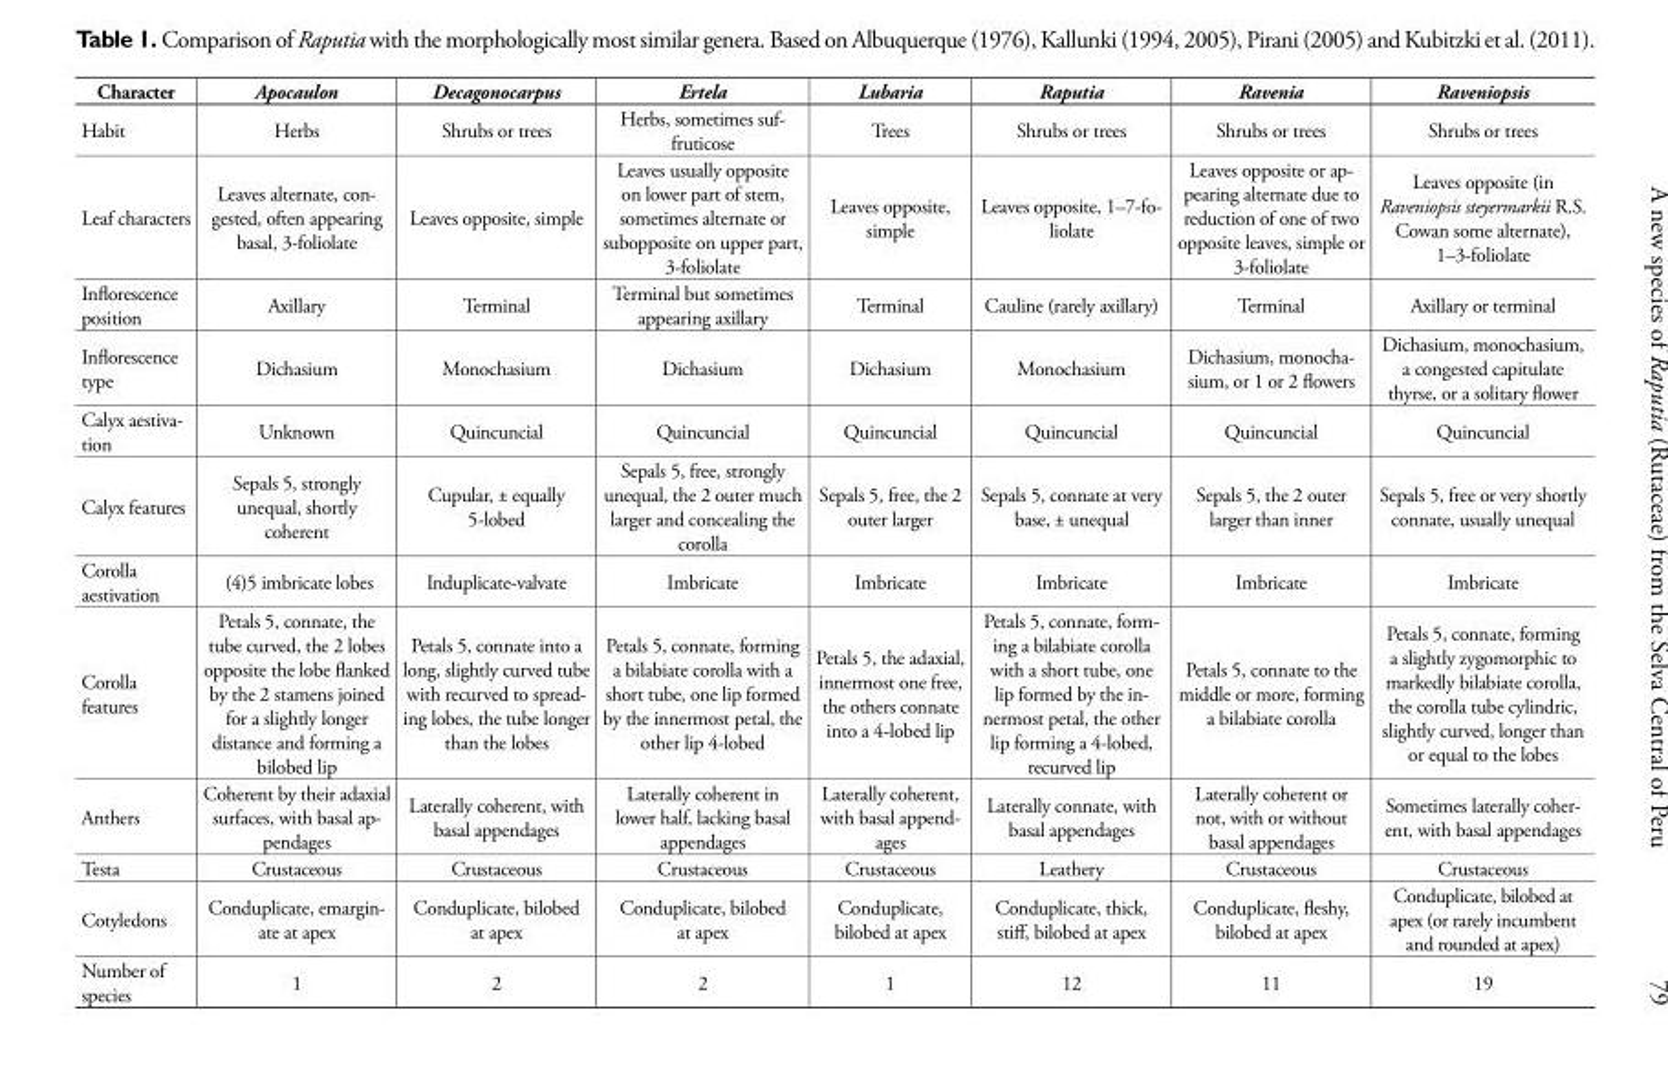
<table><thead><tr><td>Character</td><td>Apocaulon</td><td>Decagonocarpus</td><td>Ertela</td><td>Lubaria</td><td>Raputia</td><td>Ravenia</td><td>Raveniopsis</td></tr></thead><tbody><tr><td>Habit</td><td>Herbs</td><td>Shrubs or trees</td><td>Herbs, sometimes suf- fruticose</td><td>Trees</td><td>Shrubs or trees</td><td>Shrubs or trees</td><td>Shrubs or trees</td></tr><tr><td>Leaf characters</td><td>Leaves alternate, con- gested, often appearing basal, 3-foliolate</td><td>Leaves opposite, simple</td><td>Leaves usually opposite on lower part of stem, sometimes alternate or subopposite on upper part, 3-foliolate</td><td>Leaves opposite, simple</td><td>Leaves opposite, 1–7-fo- liolate</td><td>Leaves opposite or ap- pearing alternate due to reduction of one of two opposite leaves, simple or 3-foliolate</td><td>Leaves opposite (in Raveniopsis steyermarkii R.S. Cowan some alternate), 1–3-foliolate</td></tr><tr><td>Inflorescence position</td><td>Axillary</td><td>Terminal</td><td>Terminal but sometimes appearing axillary</td><td>Terminal</td><td>Cauline (rarely axillary)</td><td>Terminal</td><td>Axillary or terminal</td></tr><tr><td>Inflorescence type</td><td>Dichasium</td><td>Monochasium</td><td>Dichasium</td><td>Dichasium</td><td>Monochasium</td><td>Dichasium, monocha- sium, or 1 or 2 flowers</td><td>Dichasium, monochasium, a congested capitulate thyrse, or a solitary flower</td></tr><tr><td>Calyx aestiva- tion</td><td>Unknown</td><td>Quincuncial</td><td>Quincuncial</td><td>Quincuncial</td><td>Quincuncial</td><td>Quincuncial</td><td>Quincuncial</td></tr><tr><td>Calyx features</td><td>Sepals 5, strongly unequal, shortly coherent</td><td>Cupular, ± equally 5-lobed</td><td>Sepals 5, free, strongly unequal, the 2 outer much larger and concealing the corolla</td><td>Sepals 5, free, the 2 outer larger</td><td>Sepals 5, connate at very base, ± unequal</td><td>Sepals 5, the 2 outer larger than inner</td><td>Sepals 5, free or very shortly connate, usually unequal</td></tr><tr><td>Corolla aestivation</td><td>(4)5 imbricate lobes</td><td>Induplicate-valvate</td><td>Imbricate</td><td>Imbricate</td><td>Imbricate</td><td>Imbricate</td><td>Imbricate</td></tr><tr><td>Corolla features</td><td>Petals 5, connate, the tube curved, the 2 lobes opposite the lobe flanked by the 2 stamens joined for a slightly longer distance and forming a bilobed lip</td><td>Petals 5, connate into a long, slightly curved tube with recurved to spread- ing lobes, the tube longer than the lobes</td><td>Petals 5, connate, forming a bilabiate corolla with a short tube, one lip formed by the innermost petal, the other lip 4-lobed</td><td>Petals 5, the adaxial, innermost one free, the others connate into a 4-lobed lip</td><td>Petals 5, connate, form- ing a bilabiate corolla with a short tube, one lip formed by the in- nermost petal, the other lip forming a 4-lobed, recurved lip</td><td>Petals 5, connate to the middle or more, forming a bilabiate corolla</td><td>Petals 5, connate, forming a slightly zygomorphic to markedly bilabiate corolla, the corolla tube cylindric, slightly curved, longer than or equal to the lobes</td></tr><tr><td>Anthers</td><td>Coherent by their adaxial surfaces, with basal ap- pendages</td><td>Laterally coherent, with basal appendages</td><td>Laterally coherent in lower half, lacking basal appendages</td><td>Laterally coherent, with basal append- ages</td><td>Laterally connate, with basal appendages</td><td>Laterally coherent or not, with or without basal appendages</td><td>Sometimes laterally coher- ent, with basal appendages</td></tr><tr><td>Testa</td><td>Crustaceous</td><td>Crustaceous</td><td>Crustaceous</td><td>Crustaceous</td><td>Leathery</td><td>Crustaceous</td><td>Crustaceous</td></tr><tr><td>Cotyledons</td><td>Conduplicate, emargin- ate at apex</td><td>Conduplicate, bilobed at apex</td><td>Conduplicate, bilobed at apex</td><td>Conduplicate, bilobed at apex</td><td>Conduplicate, thick, stiff, bilobed at apex</td><td>Conduplicate, fleshy, bilobed at apex</td><td>Conduplicate, bilobed at apex (or rarely incumbent and rounded at apex)</td></tr><tr><td>Number of species</td><td>1</td><td>2</td><td>2</td><td>1</td><td>12</td><td>11</td><td>19</td></tr></tbody></table>